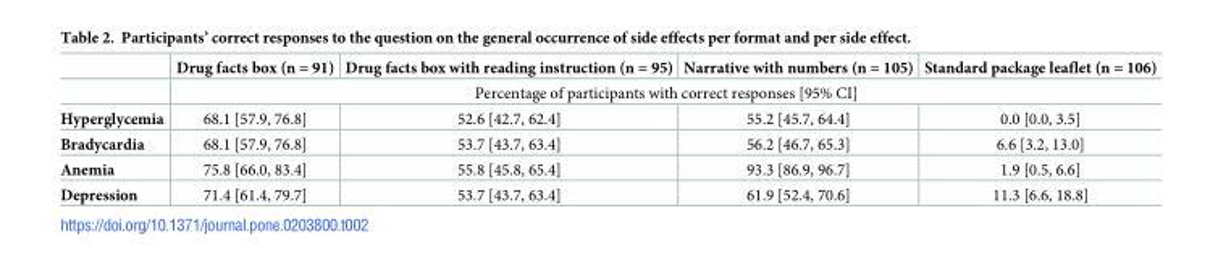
<table><thead><tr><td></td><td>Drug facts box (n = 91)</td><td>Drug facts box with reading instruction (n = 95)</td><td>Narrative with numbers (n = 105)</td><td>Standard package leaflet (n = 106)</td></tr></thead><tbody><tr><td></td><td colspan="4">Percentage of participants with correct responses [95% CI]</td></tr><tr><td>Hyperglycemia</td><td>68.1 [57.9, 76.8]</td><td>52.6 [42.7, 62.4]</td><td>55.2 [45.7, 64.4]</td><td>0.0 [0.0, 3.5]</td></tr><tr><td>Bradycardia</td><td>68.1 [57.9, 76.8]</td><td>53.7 [43.7, 63.4]</td><td>56.2 [46.7, 65.3]</td><td>6.6 [3.2, 13.0]</td></tr><tr><td>Anemia</td><td>75.8 [66.0, 83.4]</td><td>55.8 [45.8, 65.4]</td><td>93.3 [86.9, 96.7]</td><td>1.9 [0.5, 6.6]</td></tr><tr><td>Depression</td><td>71.4 [61.4, 79.7]</td><td>53.7 [43.7, 63.4]</td><td>61.9 [52.4, 70.6]</td><td>11.3 [6.6, 18.8]</td></tr></tbody></table>